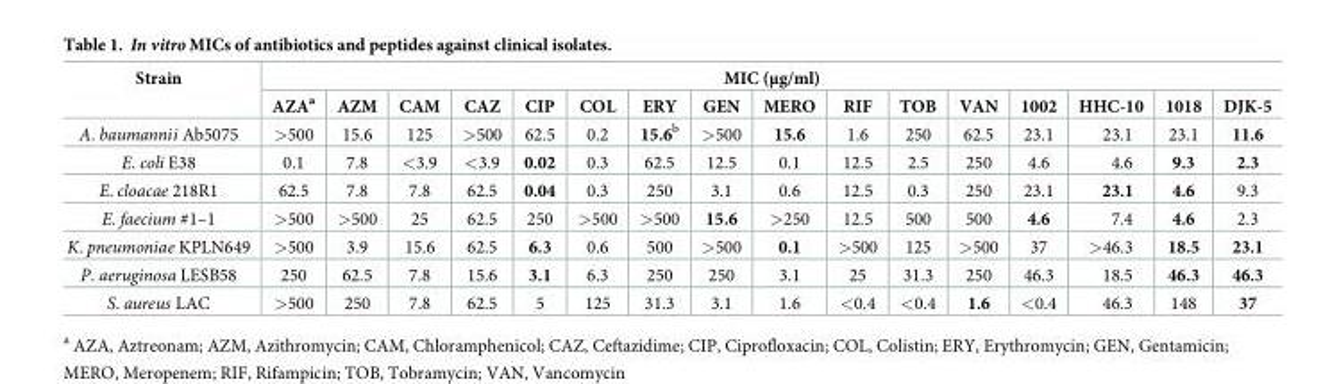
<table><thead><tr><td rowspan="2">Strain</td><td colspan="16">MIC (μg/ml)</td></tr><tr><td>AZA<sup>a</sup></td><td>AZM</td><td>CAM</td><td>CAZ</td><td>CIP</td><td>COL</td><td>ERY</td><td>GEN</td><td>MERO</td><td>RIF</td><td>TOB</td><td>VAN</td><td>1002</td><td>HHC-10</td><td>1018</td><td>DJK-5</td></tr></thead><tbody><tr><td>A. baumannii Ab5075</td><td>&gt;500</td><td>15.6</td><td>125</td><td>&gt;500</td><td>62.5</td><td>0.2</td><td>15.6<sup>b</sup></td><td>&gt;500</td><td>15.6</td><td>1.6</td><td>250</td><td>62.5</td><td>23.1</td><td>23.1</td><td>23.1</td><td>11.6</td></tr><tr><td>E. coli E38</td><td>0.1</td><td>7.8</td><td>&lt;3.9</td><td>&lt;3.9</td><td>0.02</td><td>0.3</td><td>62.5</td><td>12.5</td><td>0.1</td><td>12.5</td><td>2.5</td><td>250</td><td>4.6</td><td>4.6</td><td>9.3</td><td>2.3</td></tr><tr><td>E. cloacae 218R1</td><td>62.5</td><td>7.8</td><td>7.8</td><td>62.5</td><td>0.04</td><td>0.3</td><td>250</td><td>3.1</td><td>0.6</td><td>12.5</td><td>0.3</td><td>250</td><td>23.1</td><td>23.1</td><td>4.6</td><td>9.3</td></tr><tr><td>E. faecium #1–1</td><td>&gt;500</td><td>&gt;500</td><td>25</td><td>62.5</td><td>250</td><td>&gt;500</td><td>&gt;500</td><td>15.6</td><td>&gt;250</td><td>12.5</td><td>500</td><td>500</td><td>4.6</td><td>7.4</td><td>4.6</td><td>2.3</td></tr><tr><td>K. pneumoniae KPLN649</td><td>&gt;500</td><td>3.9</td><td>15.6</td><td>62.5</td><td>6.3</td><td>0.6</td><td>500</td><td>&gt;500</td><td>0.1</td><td>&gt;500</td><td>125</td><td>&gt;500</td><td>37</td><td>&gt;46.3</td><td>18.5</td><td>23.1</td></tr><tr><td>P. aeruginosa LESB58</td><td>250</td><td>62.5</td><td>7.8</td><td>15.6</td><td>3.1</td><td>6.3</td><td>250</td><td>250</td><td>3.1</td><td>25</td><td>31.3</td><td>250</td><td>46.3</td><td>18.5</td><td>46.3</td><td>46.3</td></tr><tr><td>S. aureus LAC</td><td>&gt;500</td><td>250</td><td>7.8</td><td>62.5</td><td>5</td><td>125</td><td>31.3</td><td>3.1</td><td>1.6</td><td>&lt;0.4</td><td>&lt;0.4</td><td>1.6</td><td>&lt;0.4</td><td>46.3</td><td>148</td><td>37</td></tr></tbody></table>